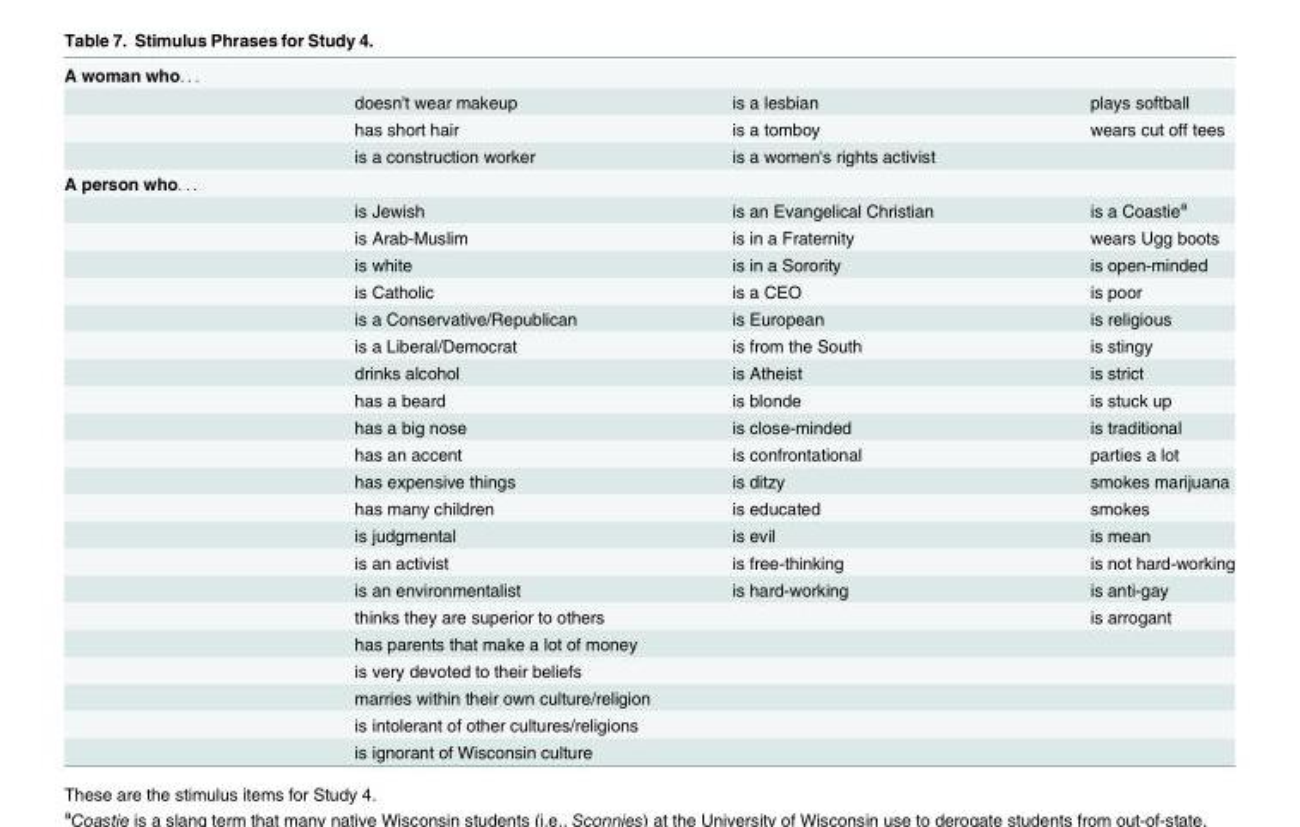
<table><tbody><tr><td colspan="4">A woman who. . .</td></tr><tr><td></td><td>doesn&#x27;t wear makeup</td><td>is a lesbian</td><td>plays softball</td></tr><tr><td></td><td>has short hair</td><td>is a tomboy</td><td>wears cut off tees</td></tr><tr><td></td><td>is a construction worker</td><td>is a women&#x27;s rights activist</td><td></td></tr><tr><td colspan="4">A person who. . .</td></tr><tr><td></td><td>is Jewish</td><td>is an Evangelical Christian</td><td>is a Coastie<sup>a</sup></td></tr><tr><td></td><td>is Arab-Muslim</td><td>is in a Fraternity</td><td>wears Ugg boots</td></tr><tr><td></td><td>is white</td><td>is in a Sorority</td><td>is open-minded</td></tr><tr><td></td><td>is Catholic</td><td>is a CEO</td><td>is poor</td></tr><tr><td></td><td>is a Conservative/Republican</td><td>is European</td><td>is religious</td></tr><tr><td></td><td>is a Liberal/Democrat</td><td>is from the South</td><td>is stingy</td></tr><tr><td></td><td>drinks alcohol</td><td>is Atheist</td><td>is strict</td></tr><tr><td></td><td>has a beard</td><td>is blonde</td><td>is stuck up</td></tr><tr><td></td><td>has a big nose</td><td>is close-minded</td><td>is traditional</td></tr><tr><td></td><td>has an accent</td><td>is confrontational</td><td>parties a lot</td></tr><tr><td></td><td>has expensive things</td><td>is ditzy</td><td>smokes marijuana</td></tr><tr><td></td><td>has many children</td><td>is educated</td><td>smokes</td></tr><tr><td></td><td>is judgmental</td><td>is evil</td><td>is mean</td></tr><tr><td></td><td>is an activist</td><td>is free-thinking</td><td>is not hard-working</td></tr><tr><td></td><td>is an environmentalist</td><td>is hard-working</td><td>is anti-gay</td></tr><tr><td></td><td colspan="2">thinks they are superior to others</td><td>is arrogant</td></tr><tr><td></td><td colspan="2">has parents that make a lot of money</td><td></td></tr><tr><td></td><td colspan="2">is very devoted to their beliefs</td><td></td></tr><tr><td></td><td colspan="2">marries within their own culture/religion</td><td></td></tr><tr><td></td><td colspan="2">is intolerant of other cultures/religions</td><td></td></tr><tr><td></td><td colspan="2">is ignorant of Wisconsin culture</td><td></td></tr></tbody></table>